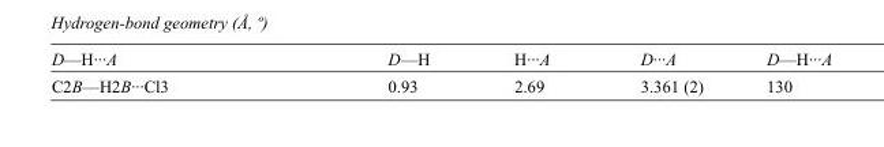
<table><tbody><tr><td>D—H···A</td><td>D—H</td><td>H···A</td><td>D···A</td><td>D—H···A</td></tr><tr><td>C2B—H2B···Cl3</td><td>0.93</td><td>2.69</td><td>3.361 (2)</td><td>130</td></tr></tbody></table>